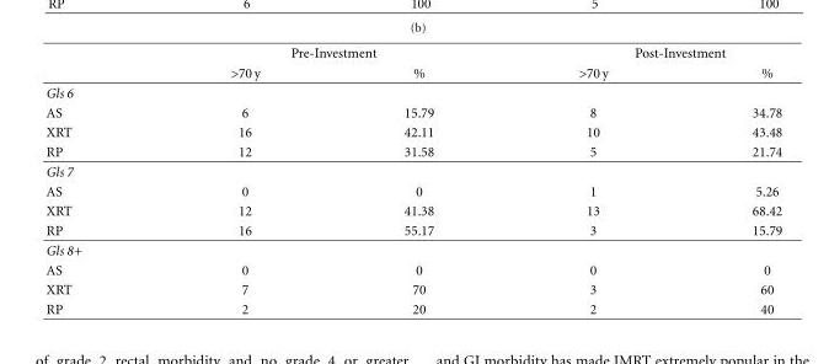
<table><thead><tr><td rowspan="2"></td><td colspan="2">Pre-Investment</td><td colspan="2">Post-Investment</td></tr><tr><td>&gt;70 y</td><td>%</td><td>&gt;70 y</td><td>%</td></tr></thead><tbody><tr><td colspan="5">Gls 6</td></tr><tr><td>AS</td><td>6</td><td>15.79</td><td>8</td><td>34.78</td></tr><tr><td>XRT</td><td>16</td><td>42.11</td><td>10</td><td>43.48</td></tr><tr><td>RP</td><td>12</td><td>31.58</td><td>5</td><td>21.74</td></tr><tr><td colspan="5">Gls 7</td></tr><tr><td>AS</td><td>0</td><td>0</td><td>1</td><td>5.26</td></tr><tr><td>XRT</td><td>12</td><td>41.38</td><td>13</td><td>68.42</td></tr><tr><td>RP</td><td>16</td><td>55.17</td><td>3</td><td>15.79</td></tr><tr><td colspan="5">Gls 8+</td></tr><tr><td>AS</td><td>0</td><td>0</td><td>0</td><td>0</td></tr><tr><td>XRT</td><td>7</td><td>70</td><td>3</td><td>60</td></tr><tr><td>RP</td><td>2</td><td>20</td><td>2</td><td>40</td></tr></tbody></table>